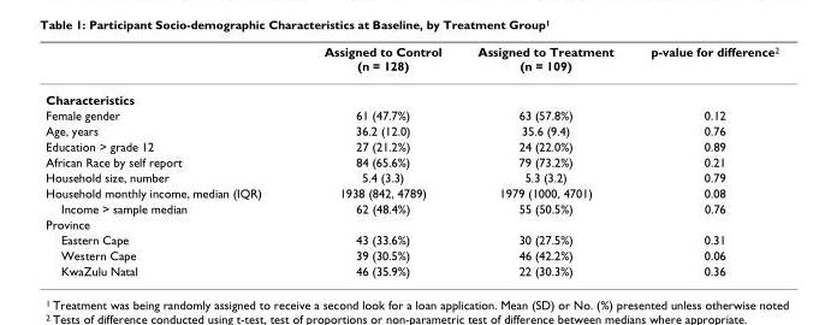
<table><thead><tr><td></td><td>Assigned to Control (n = 128)</td><td>Assigned to Treatment (n = 109)</td><td>p-value for difference<sup>2</sup></td></tr></thead><tbody><tr><td colspan="4">Characteristics</td></tr><tr><td>Female gender</td><td>61 (47.7%)</td><td>63 (57.8%)</td><td>0.12</td></tr><tr><td>Age, years</td><td>36.2 (12.0)</td><td>35.6 (9.4)</td><td>0.76</td></tr><tr><td>Education &gt; grade 12</td><td>27 (21.2%)</td><td>24 (22.0%)</td><td>0.89</td></tr><tr><td>African Race by self report</td><td>84 (65.6%)</td><td>79 (73.2%)</td><td>0.21</td></tr><tr><td>Household size, number</td><td>5.4 (3.3)</td><td>5.3 (3.2)</td><td>0.79</td></tr><tr><td>Household monthly income, median (IQR)</td><td>1938 (842, 4789)</td><td>1979 (1000, 4701)</td><td>0.08</td></tr><tr><td>Income &gt; sample median</td><td>62 (48.4%)</td><td>55 (50.5%)</td><td>0.76</td></tr><tr><td colspan="4">Province</td></tr><tr><td>Eastern Cape</td><td>43 (33.6%)</td><td>30 (27.5%)</td><td>0.31</td></tr><tr><td>Western Cape</td><td>39 (30.5%)</td><td>46 (42.2%)</td><td>0.06</td></tr><tr><td>KwaZulu Natal</td><td>46 (35.9%)</td><td>22 (30.3%)</td><td>0.36</td></tr></tbody></table>